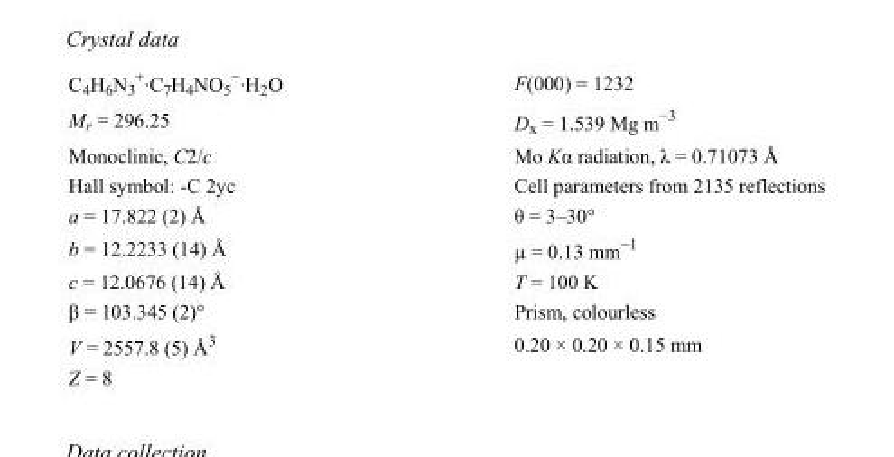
<table><tbody><tr><td>C<sub>4</sub>H<sub>6</sub>N<sub>3</sub> <sup>+</sup>·C<sub>7</sub>H<sub>4</sub>NO<sub>5</sub> <sup>−</sup>·H<sub>2</sub>O</td><td>F(000) = 1232</td></tr><tr><td>M<sub>r</sub> = 296.25</td><td>D<sub>x</sub> = 1.539 Mg m<sup>−3</sup></td></tr><tr><td>Monoclinic, C2/c</td><td>Mo Kα radiation, λ = 0.71073 Å</td></tr><tr><td>Hall symbol: -C 2yc</td><td>Cell parameters from 2135 reflections</td></tr><tr><td>a = 17.822 (2) Å</td><td>θ = 3–30°</td></tr><tr><td>b = 12.2233 (14) Å</td><td>µ = 0.13 mm<sup>−1</sup></td></tr><tr><td>c = 12.0676 (14) Å</td><td>T = 100 K</td></tr><tr><td>β = 103.345 (2)°</td><td>Prism, colourless</td></tr><tr><td>V = 2557.8 (5) Å<sup>3</sup></td><td>0.20 × 0.20 × 0.15 mm</td></tr><tr><td>Z = 8</td><td></td></tr></tbody></table>